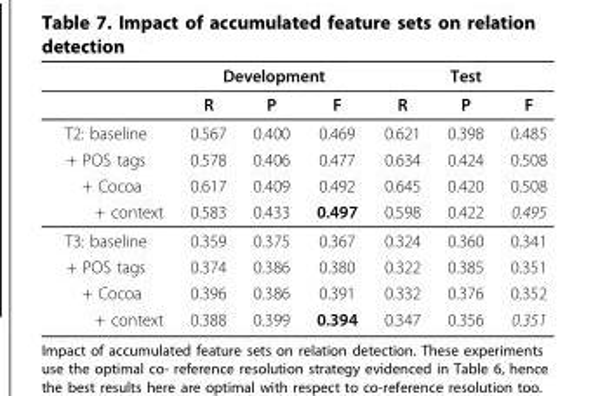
<table><thead><tr><td rowspan="2"></td><td colspan="3">Development</td><td colspan="3">Test</td></tr><tr><td>R</td><td>P</td><td>F</td><td>R</td><td>P</td><td>F</td></tr></thead><tbody><tr><td>T2: baseline</td><td>0.567</td><td>0.400</td><td>0.469</td><td>0.621</td><td>0.398</td><td>0.485</td></tr><tr><td>+ POS tags</td><td>0.578</td><td>0.406</td><td>0.477</td><td>0.634</td><td>0.424</td><td>0.508</td></tr><tr><td>+ Cocoa</td><td>0.617</td><td>0.409</td><td>0.492</td><td>0.645</td><td>0.420</td><td>0.508</td></tr><tr><td>+ context</td><td>0.583</td><td>0.433</td><td>0.497</td><td>0.598</td><td>0.422</td><td>0.495</td></tr><tr><td>T3: baseline</td><td>0.359</td><td>0.375</td><td>0.367</td><td>0.324</td><td>0.360</td><td>0.341</td></tr><tr><td>+ POS tags</td><td>0.374</td><td>0.386</td><td>0.380</td><td>0.322</td><td>0.385</td><td>0.351</td></tr><tr><td>+ Cocoa</td><td>0.396</td><td>0.386</td><td>0.391</td><td>0.332</td><td>0.376</td><td>0.352</td></tr><tr><td>+ context</td><td>0.388</td><td>0.399</td><td>0.394</td><td>0.347</td><td>0.356</td><td>0.351</td></tr></tbody></table>